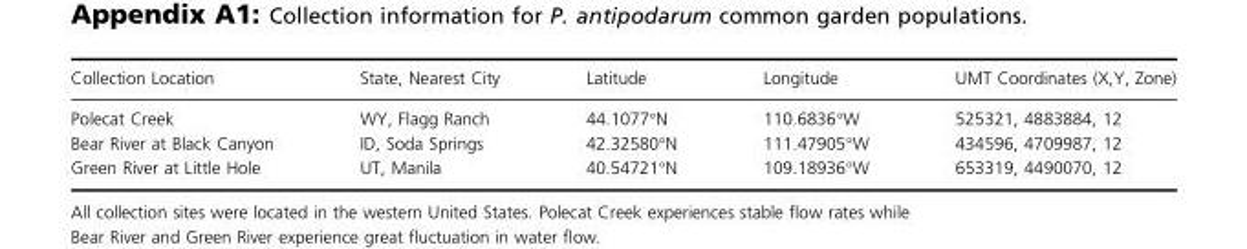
<table><thead><tr><td>Collection Location</td><td>State, Nearest City</td><td>Latitude</td><td>Longitude</td><td>UMT Coordinates (X,Y, Zone)</td></tr></thead><tbody><tr><td>Polecat Creek</td><td>WY, Flagg Ranch</td><td>44.1077°N</td><td>110.6836°W</td><td>525321, 4883884, 12</td></tr><tr><td>Bear River at Black Canyon</td><td>ID, Soda Springs</td><td>42.32580°N</td><td>111.47905°W</td><td>434596, 4709987, 12</td></tr><tr><td>Green River at Little Hole</td><td>UT, Manila</td><td>40.54721°N</td><td>109.18936°W</td><td>653319, 4490070, 12</td></tr></tbody></table>